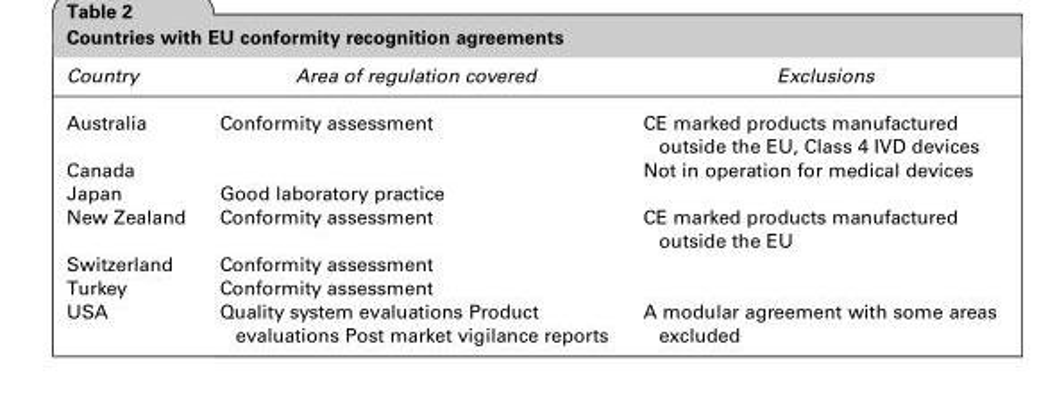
<table><thead><tr><td>Country</td><td>Area of regulation covered</td><td>Exclusions</td></tr></thead><tbody><tr><td>Australia</td><td>Conformity assessment</td><td>CE marked products manufactured outside the EU, Class 4 IVD devices</td></tr><tr><td>Canada</td><td></td><td>Not in operation for medical devices</td></tr><tr><td>Japan</td><td>Good laboratory practice</td><td></td></tr><tr><td>New Zealand</td><td>Conformity assessment</td><td>CE marked products manufactured outside the EU</td></tr><tr><td>Switzerland</td><td>Conformity assessment</td><td></td></tr><tr><td>Turkey</td><td>Conformity assessment</td><td></td></tr><tr><td>USA</td><td>Quality system evaluations Product evaluations Post market vigilance reports</td><td>A modular agreement with some areas excluded</td></tr></tbody></table>